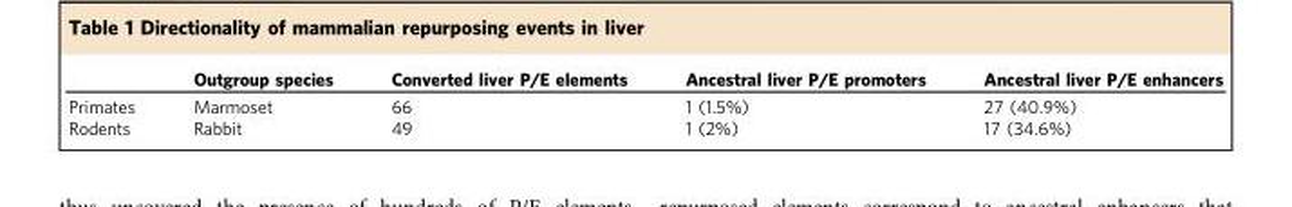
<table><thead><tr><td></td><td>Outgroup species</td><td>Converted liver P/E elements</td><td>Ancestral liver P/E promoters</td><td>Ancestral liver P/E enhancers</td></tr></thead><tbody><tr><td>Primates</td><td>Marmoset</td><td>66</td><td>1 (1.5%)</td><td>27 (40.9%)</td></tr><tr><td>Rodents</td><td>Rabbit</td><td>49</td><td>1 (2%)</td><td>17 (34.6%)</td></tr></tbody></table>